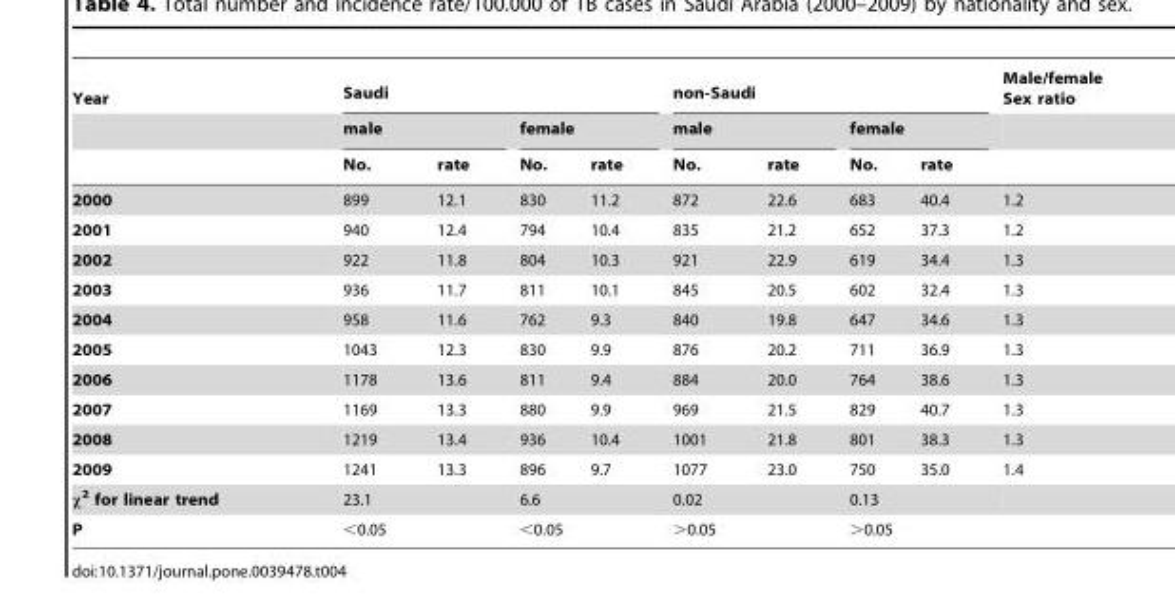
<table><thead><tr><td rowspan="3">Year</td><td colspan="4">Saudi</td><td colspan="4">non-Saudi</td><td rowspan="3">Male/female Sex ratio</td></tr><tr><td colspan="2">male</td><td colspan="2">female</td><td colspan="2">male</td><td colspan="2">female</td></tr><tr><td>No.</td><td>rate</td><td>No.</td><td>rate</td><td>No.</td><td>rate</td><td>No.</td><td>rate</td></tr></thead><tbody><tr><td>2000</td><td>899</td><td>12.1</td><td>830</td><td>11.2</td><td>872</td><td>22.6</td><td>683</td><td>40.4</td><td>1.2</td></tr><tr><td>2001</td><td>940</td><td>12.4</td><td>794</td><td>10.4</td><td>835</td><td>21.2</td><td>652</td><td>37.3</td><td>1.2</td></tr><tr><td>2002</td><td>922</td><td>11.8</td><td>804</td><td>10.3</td><td>921</td><td>22.9</td><td>619</td><td>34.4</td><td>1.3</td></tr><tr><td>2003</td><td>936</td><td>11.7</td><td>811</td><td>10.1</td><td>845</td><td>20.5</td><td>602</td><td>32.4</td><td>1.3</td></tr><tr><td>2004</td><td>958</td><td>11.6</td><td>762</td><td>9.3</td><td>840</td><td>19.8</td><td>647</td><td>34.6</td><td>1.3</td></tr><tr><td>2005</td><td>1043</td><td>12.3</td><td>830</td><td>9.9</td><td>876</td><td>20.2</td><td>711</td><td>36.9</td><td>1.3</td></tr><tr><td>2006</td><td>1178</td><td>13.6</td><td>811</td><td>9.4</td><td>884</td><td>20.0</td><td>764</td><td>38.6</td><td>1.3</td></tr><tr><td>2007</td><td>1169</td><td>13.3</td><td>880</td><td>9.9</td><td>969</td><td>21.5</td><td>829</td><td>40.7</td><td>1.3</td></tr><tr><td>2008</td><td>1219</td><td>13.4</td><td>936</td><td>10.4</td><td>1001</td><td>21.8</td><td>801</td><td>38.3</td><td>1.3</td></tr><tr><td>2009</td><td>1241</td><td>13.3</td><td>896</td><td>9.7</td><td>1077</td><td>23.0</td><td>750</td><td>35.0</td><td>1.4</td></tr><tr><td>χ<sup>2</sup> for linear trend</td><td colspan="2">23.1</td><td colspan="2">6.6</td><td colspan="2">0.02</td><td colspan="2">0.13</td><td></td></tr><tr><td>P</td><td colspan="2">&lt;0.05</td><td colspan="2">&lt;0.05</td><td colspan="2">&gt;0.05</td><td colspan="2">&gt;0.05</td><td></td></tr></tbody></table>